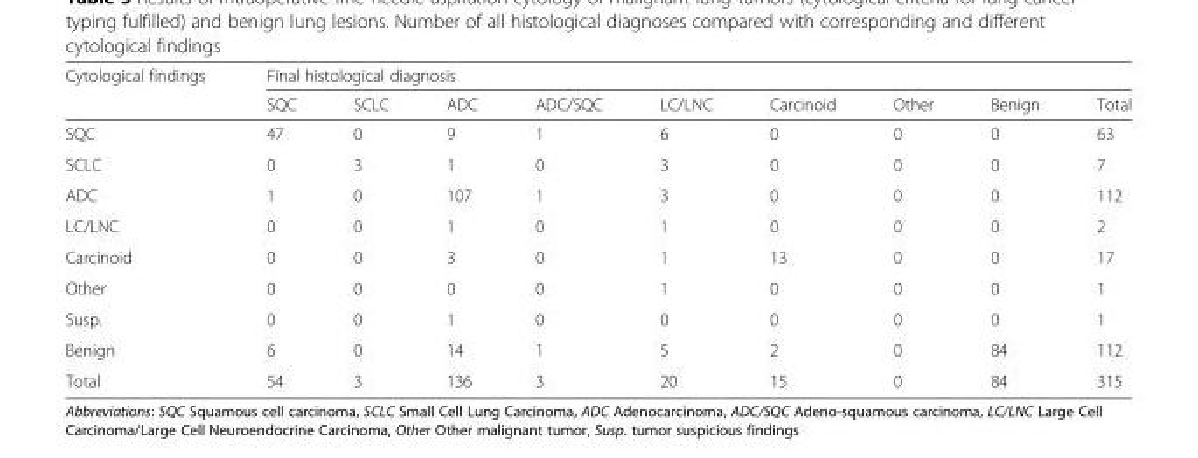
<table><thead><tr><td rowspan="2">Cytological findings</td><td colspan="9">Final histological diagnosis</td></tr><tr><td>SQC</td><td>SCLC</td><td>ADC</td><td>ADC/SQC</td><td>LC/LNC</td><td>Carcinoid</td><td>Other</td><td>Benign</td><td>Total</td></tr></thead><tbody><tr><td>SQC</td><td>47</td><td>0</td><td>9</td><td>1</td><td>6</td><td>0</td><td>0</td><td>0</td><td>63</td></tr><tr><td>SCLC</td><td>0</td><td>3</td><td>1</td><td>0</td><td>3</td><td>0</td><td>0</td><td>0</td><td>7</td></tr><tr><td>ADC</td><td>1</td><td>0</td><td>107</td><td>1</td><td>3</td><td>0</td><td>0</td><td>0</td><td>112</td></tr><tr><td>LC/LNC</td><td>0</td><td>0</td><td>1</td><td>0</td><td>1</td><td>0</td><td>0</td><td>0</td><td>2</td></tr><tr><td>Carcinoid</td><td>0</td><td>0</td><td>3</td><td>0</td><td>1</td><td>13</td><td>0</td><td>0</td><td>17</td></tr><tr><td>Other</td><td>0</td><td>0</td><td>0</td><td>0</td><td>1</td><td>0</td><td>0</td><td>0</td><td>1</td></tr><tr><td>Susp.</td><td>0</td><td>0</td><td>1</td><td>0</td><td>0</td><td>0</td><td>0</td><td>0</td><td>1</td></tr><tr><td>Benign</td><td>6</td><td>0</td><td>14</td><td>1</td><td>5</td><td>2</td><td>0</td><td>84</td><td>112</td></tr><tr><td>Total</td><td>54</td><td>3</td><td>136</td><td>3</td><td>20</td><td>15</td><td>0</td><td>84</td><td>315</td></tr></tbody></table>